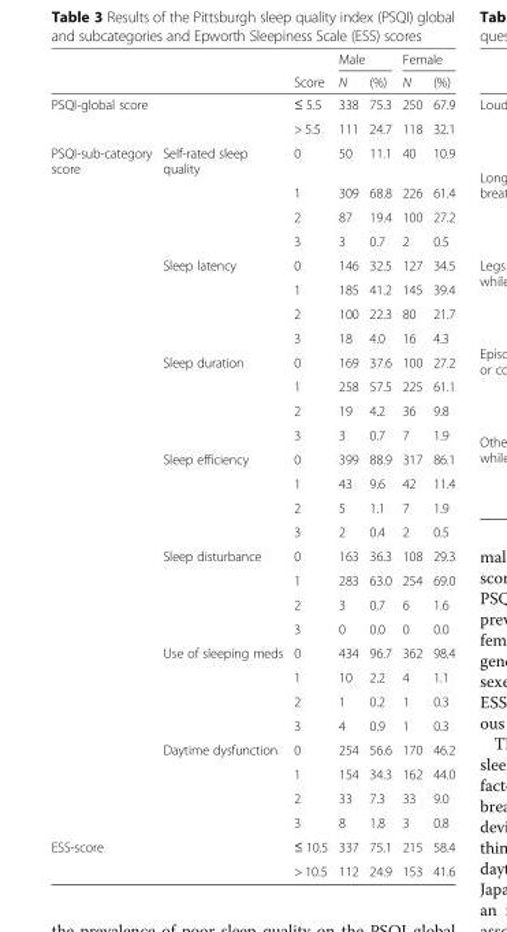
<table><thead><tr><td rowspan="2"></td><td rowspan="2"></td><td rowspan="2">Score</td><td colspan="2">Male</td><td colspan="2">Female</td></tr><tr><td>N</td><td>(%)</td><td>N</td><td>(%)</td></tr></thead><tbody><tr><td colspan="2">PSQI-global score</td><td>≤ 5.5</td><td>338</td><td>75.3</td><td>250</td><td>67.9</td></tr><tr><td></td><td></td><td>&gt; 5.5</td><td>111</td><td>24.7</td><td>118</td><td>32.1</td></tr><tr><td rowspan="28">PSQI-sub-category score</td><td>Self-rated sleep quality</td><td>0</td><td>50</td><td>11.1</td><td>40</td><td>10.9</td></tr><tr><td></td><td>1</td><td>309</td><td>68.8</td><td>226</td><td>61.4</td></tr><tr><td></td><td>2</td><td>87</td><td>19.4</td><td>100</td><td>27.2</td></tr><tr><td></td><td>3</td><td>3</td><td>0.7</td><td>2</td><td>0.5</td></tr><tr><td>Sleep latency</td><td>0</td><td>146</td><td>32.5</td><td>127</td><td>34.5</td></tr><tr><td></td><td>1</td><td>185</td><td>41.2</td><td>145</td><td>39.4</td></tr><tr><td></td><td>2</td><td>100</td><td>22.3</td><td>80</td><td>21.7</td></tr><tr><td></td><td>3</td><td>18</td><td>4.0</td><td>16</td><td>4.3</td></tr><tr><td>Sleep duration</td><td>0</td><td>169</td><td>37.6</td><td>100</td><td>27.2</td></tr><tr><td></td><td>1</td><td>258</td><td>57.5</td><td>225</td><td>61.1</td></tr><tr><td></td><td>2</td><td>19</td><td>4.2</td><td>36</td><td>9.8</td></tr><tr><td></td><td>3</td><td>3</td><td>0.7</td><td>7</td><td>1.9</td></tr><tr><td>Sleep efficiency</td><td>0</td><td>399</td><td>88.9</td><td>317</td><td>86.1</td></tr><tr><td></td><td>1</td><td>43</td><td>9.6</td><td>42</td><td>11.4</td></tr><tr><td></td><td>2</td><td>5</td><td>1.1</td><td>7</td><td>1.9</td></tr><tr><td></td><td>3</td><td>2</td><td>0.4</td><td>2</td><td>0.5</td></tr><tr><td>Sleep disturbance</td><td>0</td><td>163</td><td>36.3</td><td>108</td><td>29.3</td></tr><tr><td></td><td>1</td><td>283</td><td>63.0</td><td>254</td><td>69.0</td></tr><tr><td></td><td>2</td><td>3</td><td>0.7</td><td>6</td><td>1.6</td></tr><tr><td></td><td>3</td><td>0</td><td>0.0</td><td>0</td><td>0.0</td></tr><tr><td>Use of sleeping meds</td><td>0</td><td>434</td><td>96.7</td><td>362</td><td>98.4</td></tr><tr><td></td><td>1</td><td>10</td><td>2.2</td><td>4</td><td>1.1</td></tr><tr><td></td><td>2</td><td>1</td><td>0.2</td><td>1</td><td>0.3</td></tr><tr><td></td><td>3</td><td>4</td><td>0.9</td><td>1</td><td>0.3</td></tr><tr><td>Daytime dysfunction</td><td>0</td><td>254</td><td>56.6</td><td>170</td><td>46.2</td></tr><tr><td></td><td>1</td><td>154</td><td>34.3</td><td>162</td><td>44.0</td></tr><tr><td></td><td>2</td><td>33</td><td>7.3</td><td>33</td><td>9.0</td></tr><tr><td></td><td>3</td><td>8</td><td>1.8</td><td>3</td><td>0.8</td></tr><tr><td rowspan="2">ESS-score</td><td></td><td>≤ 10.5</td><td>337</td><td>75.1</td><td>215</td><td>58.4</td></tr><tr><td></td><td>&gt; 10.5</td><td>112</td><td>24.9</td><td>153</td><td>41.6</td></tr></tbody></table>